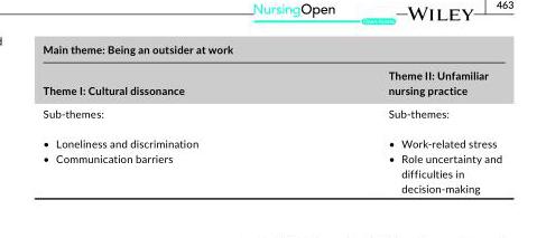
<table><thead><tr><td colspan="2">Main theme: Being an outsider at work</td></tr><tr><td>Theme I: Cultural dissonance</td><td>Theme II: Unfamiliar nursing practice</td></tr></thead><tbody><tr><td>Sub- themes: • Loneliness and discrimination • Communication barriers</td><td>Sub- themes: • Work-related stress • Role uncertainty and difficulties in decision-making</td></tr></tbody></table>